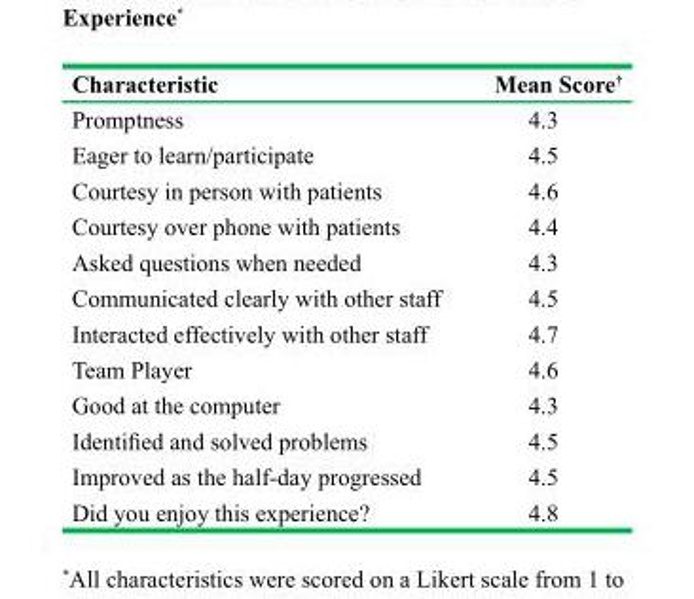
<table><thead><tr><td>Characteristic</td><td>Mean Score†</td></tr></thead><tbody><tr><td>Promptness</td><td>4.3</td></tr><tr><td>Eager to learn/participate</td><td>4.5</td></tr><tr><td>Courtesy in person with patients</td><td>4.6</td></tr><tr><td>Courtesy over phone with patients</td><td>4.4</td></tr><tr><td>Asked questions when needed</td><td>4.3</td></tr><tr><td>Communicated clearly with other staff</td><td>4.5</td></tr><tr><td>Interacted effectively with other staff</td><td>4.7</td></tr><tr><td>Team Player</td><td>4.6</td></tr><tr><td>Good at the computer</td><td>4.3</td></tr><tr><td>Identified and solved problems</td><td>4.5</td></tr><tr><td>Improved as the half-day progressed</td><td>4.5</td></tr><tr><td>Did you enjoy this experience?</td><td>4.8</td></tr></tbody></table>